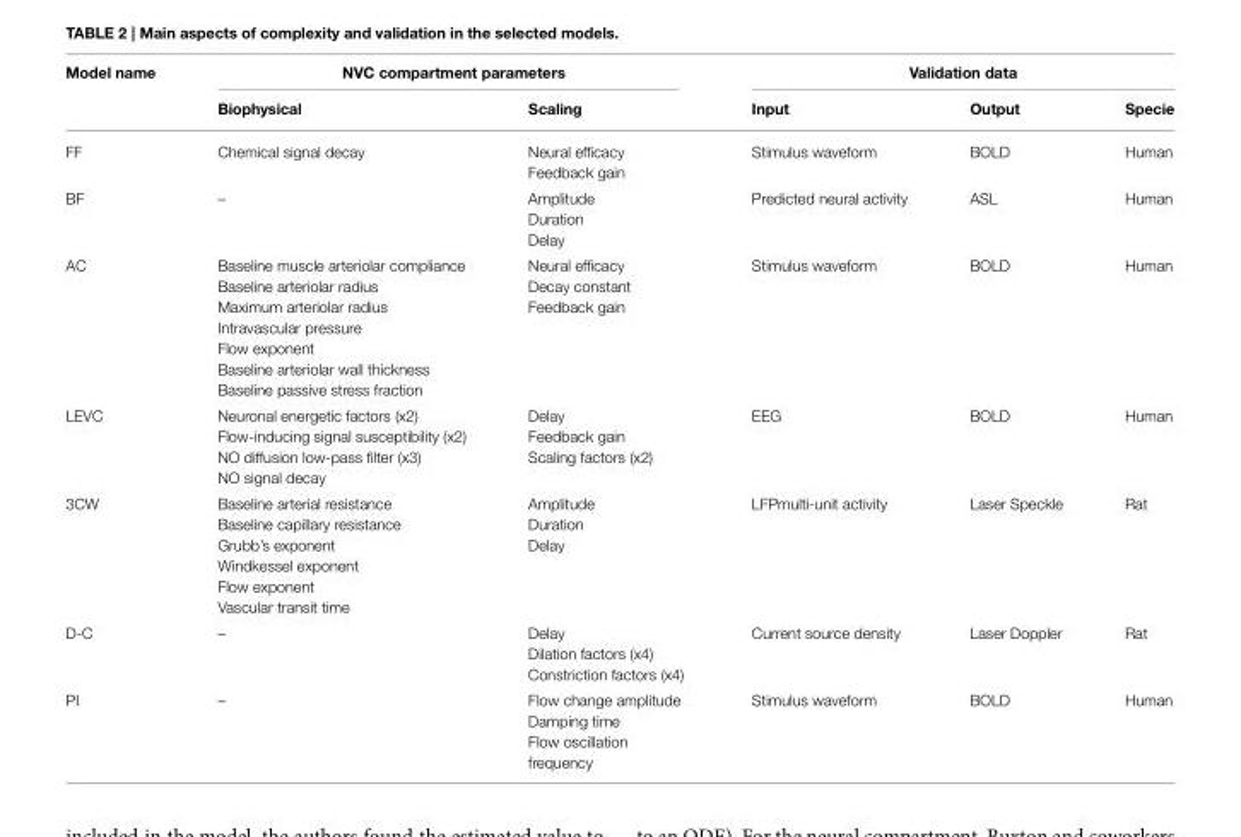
<table><thead><tr><td rowspan="2">Model name</td><td colspan="2">NVC compartment parameters</td><td colspan="3">Validation data</td></tr><tr><td>Biophysical</td><td>Scaling</td><td>Input</td><td>Output</td><td>Specie</td></tr></thead><tbody><tr><td>FF</td><td>Chemical signal decay</td><td>Neural efficacy Feedback gain</td><td>Stimulus waveform</td><td>BOLD</td><td>Human</td></tr><tr><td>BF</td><td>–</td><td>Amplitude Duration Delay</td><td>Predicted neural activity</td><td>ASL</td><td>Human</td></tr><tr><td>AC</td><td>Baseline muscle arteriolar compliance Baseline arteriolar radius Maximum arteriolar radius Intravascular pressure Flow exponent Baseline arteriolar wall thickness Baseline passive stress fraction</td><td>Neural efficacy Decay constant Feedback gain</td><td>Stimulus waveform</td><td>BOLD</td><td>Human</td></tr><tr><td>LEVC</td><td>Neuronal energetic factors (x2) Flow-inducing signal susceptibility (x2) NO diffusion low-pass filter (x3) NO signal decay</td><td>Delay Feedback gain Scaling factors (x2)</td><td>EEG</td><td>BOLD</td><td>Human</td></tr><tr><td>3CW</td><td>Baseline arterial resistance Baseline capillary resistance Grubb’s exponent Windkessel exponent Flow exponent Vascular transit time</td><td>Amplitude Duration Delay</td><td>LFPmulti-unit activity</td><td>Laser Speckle</td><td>Rat</td></tr><tr><td>D-C</td><td>–</td><td>Delay Dilation factors (x4) Constriction factors (x4)</td><td>Current source density</td><td>Laser Doppler</td><td>Rat</td></tr><tr><td>PI</td><td>–</td><td>Flow change amplitude Damping time Flow oscillation frequency</td><td>Stimulus waveform</td><td>BOLD</td><td>Human</td></tr></tbody></table>